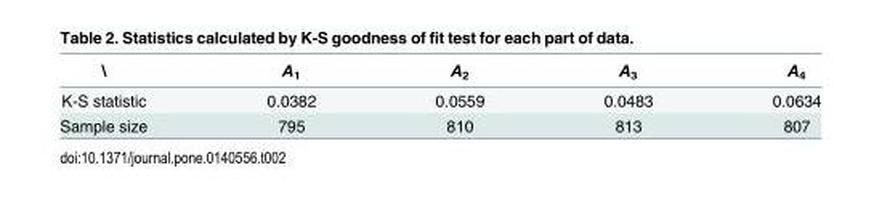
<table><thead><tr><td>\</td><td>A<sub>1</sub></td><td>A<sub>2</sub></td><td>A<sub>3</sub></td><td>A<sub>4</sub></td></tr></thead><tbody><tr><td>K-S statistic</td><td>0.0382</td><td>0.0559</td><td>0.0483</td><td>0.0634</td></tr><tr><td>Sample size</td><td>795</td><td>810</td><td>813</td><td>807</td></tr></tbody></table>